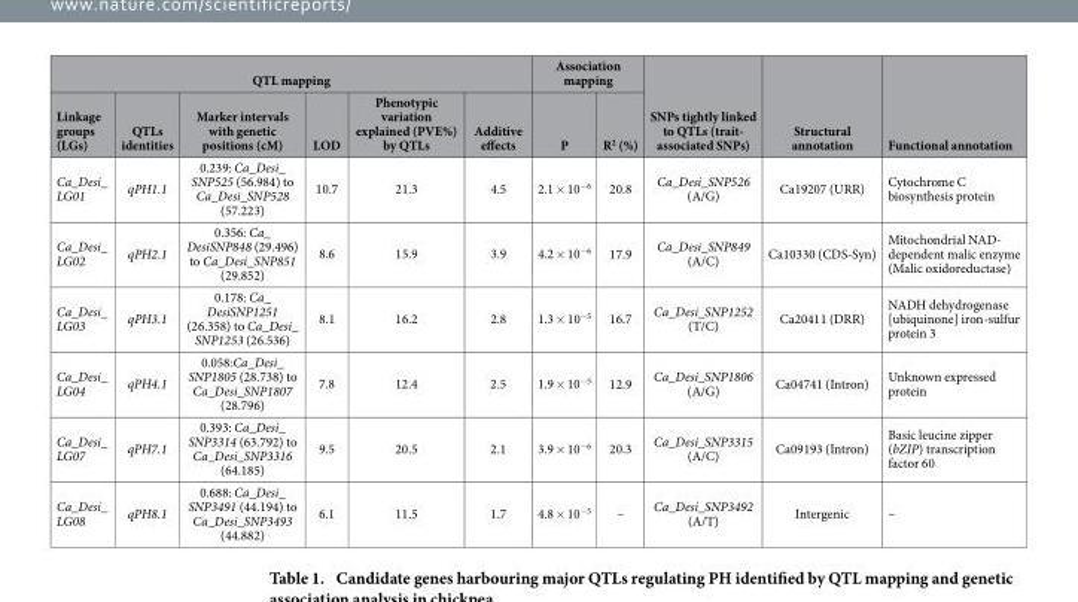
<table><thead><tr><td colspan="6">QTL mapping</td><td colspan="2">Association mapping</td><td rowspan="2">SNPs tightly linked to QTLs (trait- associated SNPs)</td><td rowspan="2">Structural annotation</td><td rowspan="2">Functional annotation</td></tr><tr><td>Linkage groups (LGs)</td><td>QTLs identities</td><td>Marker intervals with genetic positions (cM)</td><td>LOD</td><td>Phenotypic variation explained (PVE%) by QTLs</td><td>Additive effects</td><td>P</td><td>R<sup>2</sup> (%)</td></tr></thead><tbody><tr><td>Ca_Desi_ LG01</td><td>qPH1.1</td><td>0.239: Ca_Desi_ SNP525 (56.984) to Ca_Desi_SNP528 (57.223)</td><td>10.7</td><td>21.3</td><td>4.5</td><td>2.1 × 10<sup>−6</sup></td><td>20.8</td><td>Ca_Desi_SNP526 (A/G)</td><td>Ca19207 (URR)</td><td>Cytochrome C biosynthesis protein</td></tr><tr><td>Ca_Desi_ LG02</td><td>qPH2.1</td><td>0.356: Ca_ DesiSNP848 (29.496) to Ca_Desi_SNP851 (29.852)</td><td>8.6</td><td>15.9</td><td>3.9</td><td>4.2 × 10<sup>−6</sup></td><td>17.9</td><td>Ca_Desi_SNP849 (A/C)</td><td>Ca10330 (CDS-Syn)</td><td>Mitochondrial NAD- dependent malic enzyme (Malic oxidoreductase)</td></tr><tr><td>Ca_Desi_ LG03</td><td>qPH3.1</td><td>0.178: Ca_ DesiSNP1251 (26.358) to Ca_Desi_ SNP1253 (26.536)</td><td>8.1</td><td>16.2</td><td>2.8</td><td>1.3 × 10<sup>−5</sup></td><td>16.7</td><td>Ca_Desi_SNP1252 (T/C)</td><td>Ca20411 (DRR)</td><td>NADH dehydrogenase [ubiquinone] iron-sulfur protein 3</td></tr><tr><td>Ca_Desi_ LG04</td><td>qPH4.1</td><td>0.058:Ca_Desi_ SNP1805 (28.738) to Ca_Desi_SNP1807 (28.796)</td><td>7.8</td><td>12.4</td><td>2.5</td><td>1.9 × 10<sup>−5</sup></td><td>12.9</td><td>Ca_Desi_SNP1806 (A/G)</td><td>Ca04741 (Intron)</td><td>Unknown expressed protein</td></tr><tr><td>Ca_Desi_ LG07</td><td>qPH7.1</td><td>0.393: Ca_Desi_ SNP3314 (63.792) to Ca_Desi_SNP3316 (64.185)</td><td>9.5</td><td>20.5</td><td>2.1</td><td>3.9 × 10<sup>−6</sup></td><td>20.3</td><td>Ca_Desi_SNP3315 (A/C)</td><td>Ca09193 (Intron)</td><td>Basic leucine zipper (bZIP) transcription factor 60</td></tr><tr><td>Ca_Desi_ LG08</td><td>qPH8.1</td><td>0.688: Ca_Desi_ SNP3491 (44.194) to Ca_Desi_SNP3493 (44.882)</td><td>6.1</td><td>11.5</td><td>1.7</td><td>4.8 × 10<sup>−5</sup></td><td>–</td><td>Ca_Desi_SNP3492 (A/T)</td><td>Intergenic</td><td>–</td></tr></tbody></table>